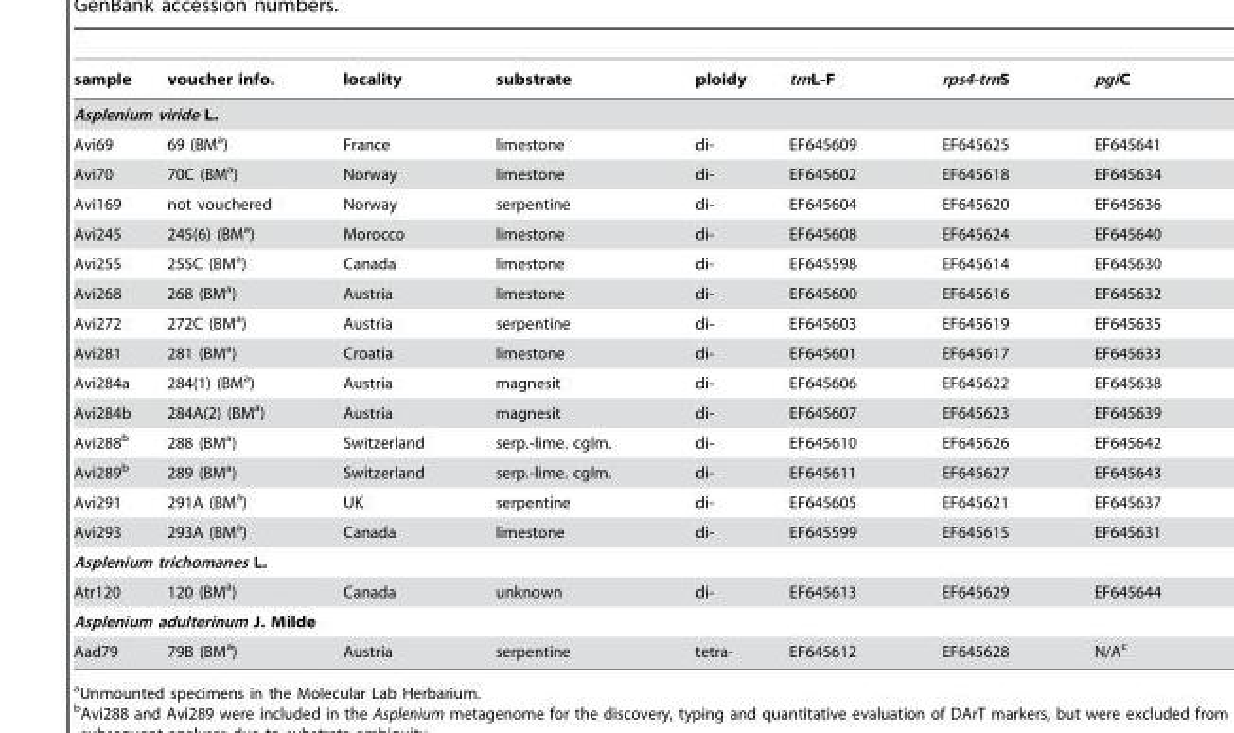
<table><thead><tr><td>sample</td><td>voucher info.</td><td>locality</td><td>substrate</td><td>ploidy</td><td>trnL-F</td><td>rps4-trnS</td><td>pgiC</td></tr></thead><tbody><tr><td colspan="8">Asplenium viride L.</td></tr><tr><td>Avi69</td><td>69 (BM<sup>a</sup>)</td><td>France</td><td>limestone</td><td>di-</td><td>EF645609</td><td>EF645625</td><td>EF645641</td></tr><tr><td>Avi70</td><td>70C (BM<sup>a</sup>)</td><td>Norway</td><td>limestone</td><td>di-</td><td>EF645602</td><td>EF645618</td><td>EF645634</td></tr><tr><td>Avi169</td><td>not vouchered</td><td>Norway</td><td>serpentine</td><td>di-</td><td>EF645604</td><td>EF645620</td><td>EF645636</td></tr><tr><td>Avi245</td><td>245(6) (BM<sup>a</sup>)</td><td>Morocco</td><td>limestone</td><td>di-</td><td>EF645608</td><td>EF645624</td><td>EF645640</td></tr><tr><td>Avi255</td><td>255C (BM<sup>a</sup>)</td><td>Canada</td><td>limestone</td><td>di-</td><td>EF645598</td><td>EF645614</td><td>EF645630</td></tr><tr><td>Avi268</td><td>268 (BM<sup>a</sup>)</td><td>Austria</td><td>limestone</td><td>di-</td><td>EF645600</td><td>EF645616</td><td>EF645632</td></tr><tr><td>Avi272</td><td>272C (BM<sup>a</sup>)</td><td>Austria</td><td>serpentine</td><td>di-</td><td>EF645603</td><td>EF645619</td><td>EF645635</td></tr><tr><td>Avi281</td><td>281 (BM<sup>a</sup>)</td><td>Croatia</td><td>limestone</td><td>di-</td><td>EF645601</td><td>EF645617</td><td>EF645633</td></tr><tr><td>Avi284a</td><td>284(1) (BM<sup>a</sup>)</td><td>Austria</td><td>magnesit</td><td>di-</td><td>EF645606</td><td>EF645622</td><td>EF645638</td></tr><tr><td>Avi284b</td><td>284A(2) (BM<sup>a</sup>)</td><td>Austria</td><td>magnesit</td><td>di-</td><td>EF645607</td><td>EF645623</td><td>EF645639</td></tr><tr><td>Avi288<sup>b</sup></td><td>288 (BM<sup>a</sup>)</td><td>Switzerland</td><td>serp.-lime. cglm.</td><td>di-</td><td>EF645610</td><td>EF645626</td><td>EF645642</td></tr><tr><td>Avi289<sup>b</sup></td><td>289 (BM<sup>a</sup>)</td><td>Switzerland</td><td>serp.-lime. cglm.</td><td>di-</td><td>EF645611</td><td>EF645627</td><td>EF645643</td></tr><tr><td>Avi291</td><td>291A (BM<sup>a</sup>)</td><td>UK</td><td>serpentine</td><td>di-</td><td>EF645605</td><td>EF645621</td><td>EF645637</td></tr><tr><td>Avi293</td><td>293A (BM<sup>a</sup>)</td><td>Canada</td><td>limestone</td><td>di-</td><td>EF645599</td><td>EF645615</td><td>EF645631</td></tr><tr><td colspan="8">Asplenium trichomanes L.</td></tr><tr><td>Atr120</td><td>120 (BM<sup>a</sup>)</td><td>Canada</td><td>unknown</td><td>di-</td><td>EF645613</td><td>EF645629</td><td>EF645644</td></tr><tr><td colspan="8">Asplenium adulterinum J. Milde</td></tr><tr><td>Aad79</td><td>79B (BM<sup>a</sup>)</td><td>Austria</td><td>serpentine</td><td>tetra-</td><td>EF645612</td><td>EF645628</td><td>N/A<sup>c</sup></td></tr></tbody></table>